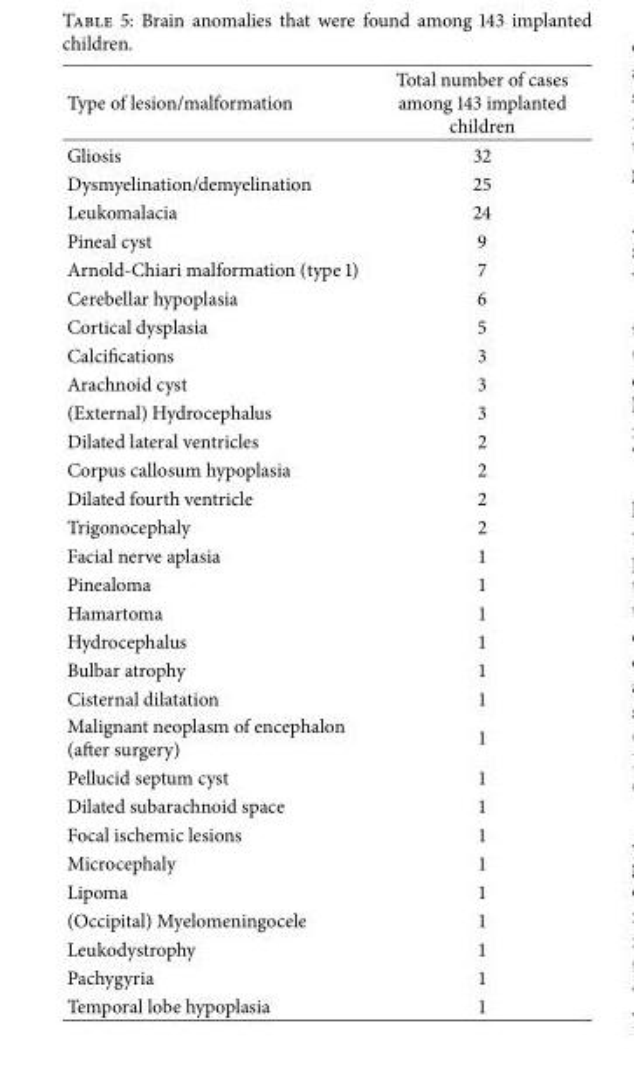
<table><thead><tr><td>Type of lesion/malformation</td><td>Total number of cases among 143 implanted children</td></tr></thead><tbody><tr><td>Gliosis</td><td>32</td></tr><tr><td>Dysmyelination/demyelination</td><td>25</td></tr><tr><td>Leukomalacia</td><td>24</td></tr><tr><td>Pineal cyst</td><td>9</td></tr><tr><td>Arnold-Chiari malformation (type 1)</td><td>7</td></tr><tr><td>Cerebellar hypoplasia</td><td>6</td></tr><tr><td>Cortical dysplasia</td><td>5</td></tr><tr><td>Calcifications</td><td>3</td></tr><tr><td>Arachnoid cyst</td><td>3</td></tr><tr><td>(External) Hydrocephalus</td><td>3</td></tr><tr><td>Dilated lateral ventricles</td><td>2</td></tr><tr><td>Corpus callosum hypoplasia</td><td>2</td></tr><tr><td>Dilated fourth ventricle</td><td>2</td></tr><tr><td>Trigonocephaly</td><td>2</td></tr><tr><td>Facial nerve aplasia</td><td>1</td></tr><tr><td>Pinealoma</td><td>1</td></tr><tr><td>Hamartoma</td><td>1</td></tr><tr><td>Hydrocephalus</td><td>1</td></tr><tr><td>Bulbar atrophy</td><td>1</td></tr><tr><td>Cisternal dilatation</td><td>1</td></tr><tr><td>Malignant neoplasm of encephalon (after surgery)</td><td>1</td></tr><tr><td>Pellucid septum cyst</td><td>1</td></tr><tr><td>Dilated subarachnoid space</td><td>1</td></tr><tr><td>Focal ischemic lesions</td><td>1</td></tr><tr><td>Microcephaly</td><td>1</td></tr><tr><td>Lipoma</td><td>1</td></tr><tr><td>(Occipital) Myelomeningocele</td><td>1</td></tr><tr><td>Leukodystrophy</td><td>1</td></tr><tr><td>Pachygyria</td><td>1</td></tr><tr><td>Temporal lobe hypoplasia</td><td>1</td></tr></tbody></table>